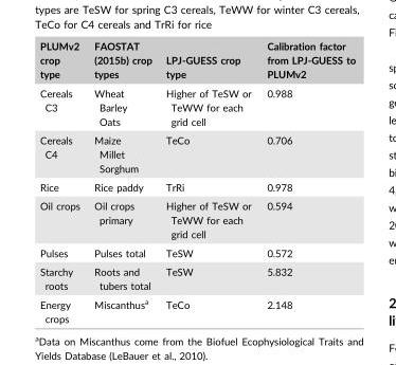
<table><thead><tr><td>PLUMv2 crop type</td><td>FAOSTAT (2015b) crop types</td><td>LPJ-GUESS crop type</td><td>Calibration factor from LPJ-GUESS to PLUMv2</td></tr></thead><tbody><tr><td>Cereals C3</td><td>Wheat Barley Oats</td><td>Higher of TeSW or TeWW for each grid cell</td><td>0.988</td></tr><tr><td>Cereals C4</td><td>Maize Millet Sorghum</td><td>TeCo</td><td>0.706</td></tr><tr><td>Rice</td><td>Rice paddy</td><td>TrRi</td><td>0.978</td></tr><tr><td>Oil crops</td><td>Oil crops primary</td><td>Higher of TeSW or TeWW for each grid cell</td><td>0.594</td></tr><tr><td>Pulses</td><td>Pulses total</td><td>TeSW</td><td>0.572</td></tr><tr><td>Starchy roots</td><td>Roots and tubers total</td><td>TeSW</td><td>5.832</td></tr><tr><td>Energy crops</td><td>Miscanthus<sup>a</sup></td><td>TeCo</td><td>2.148</td></tr></tbody></table>